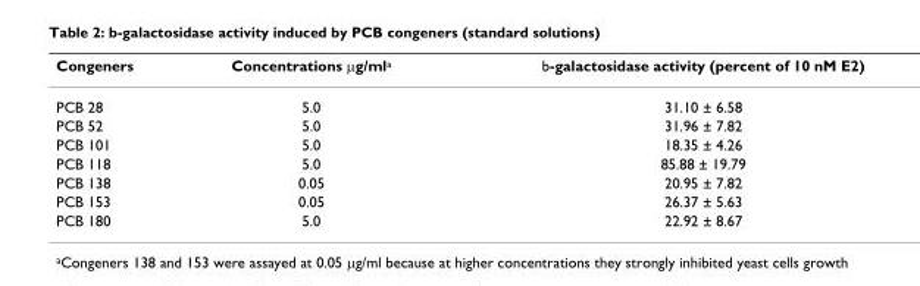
<table><thead><tr><td>Congeners</td><td>Concentrations µg/ml<sup>a</sup></td><td>b-galactosidase activity (percent of 10 nM E2)</td></tr></thead><tbody><tr><td>PCB 28</td><td>5.0</td><td>31.10 ± 6.58</td></tr><tr><td>PCB 52</td><td>5.0</td><td>31.96 ± 7.82</td></tr><tr><td>PCB 101</td><td>5.0</td><td>18.35 ± 4.26</td></tr><tr><td>PCB 118</td><td>5.0</td><td>85.88 ± 19.79</td></tr><tr><td>PCB 138</td><td>0.05</td><td>20.95 ± 7.82</td></tr><tr><td>PCB 153</td><td>0.05</td><td>26.37 ± 5.63</td></tr><tr><td>PCB 180</td><td>5.0</td><td>22.92 ± 8.67</td></tr></tbody></table>